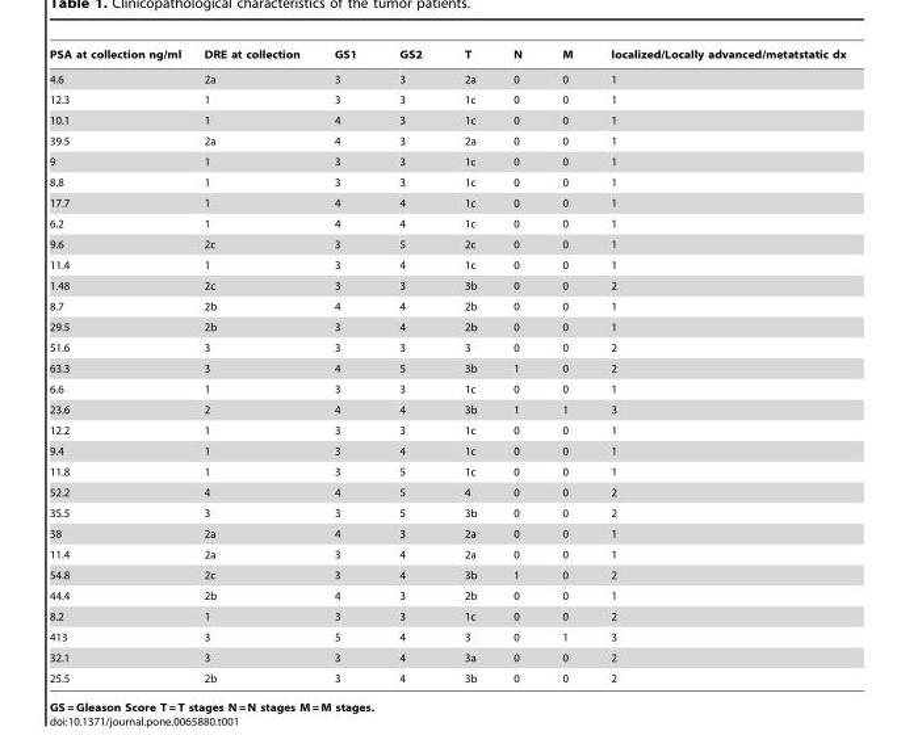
<table><thead><tr><td>PSA at collection ng/ml</td><td>DRE at collection</td><td>GS1</td><td>GS2</td><td>T</td><td>N</td><td>M</td><td>localized/Locally advanced/metatstatic dx</td></tr></thead><tbody><tr><td>4.6</td><td>2a</td><td>3</td><td>3</td><td>2a</td><td>0</td><td>0</td><td>1</td></tr><tr><td>12.3</td><td>1</td><td>3</td><td>3</td><td>1c</td><td>0</td><td>0</td><td>1</td></tr><tr><td>10.1</td><td>1</td><td>4</td><td>3</td><td>1c</td><td>0</td><td>0</td><td>1</td></tr><tr><td>39.5</td><td>2a</td><td>4</td><td>3</td><td>2a</td><td>0</td><td>0</td><td>1</td></tr><tr><td>9</td><td>1</td><td>3</td><td>3</td><td>1c</td><td>0</td><td>0</td><td>1</td></tr><tr><td>8.8</td><td>1</td><td>3</td><td>3</td><td>1c</td><td>0</td><td>0</td><td>1</td></tr><tr><td>17.7</td><td>1</td><td>4</td><td>4</td><td>1c</td><td>0</td><td>0</td><td>1</td></tr><tr><td>6.2</td><td>1</td><td>4</td><td>4</td><td>1c</td><td>0</td><td>0</td><td>1</td></tr><tr><td>9.6</td><td>2c</td><td>3</td><td>5</td><td>2c</td><td>0</td><td>0</td><td>1</td></tr><tr><td>11.4</td><td>1</td><td>3</td><td>4</td><td>1c</td><td>0</td><td>0</td><td>1</td></tr><tr><td>1.48</td><td>2c</td><td>3</td><td>3</td><td>3b</td><td>0</td><td>0</td><td>2</td></tr><tr><td>8.7</td><td>2b</td><td>4</td><td>4</td><td>2b</td><td>0</td><td>0</td><td>1</td></tr><tr><td>29.5</td><td>2b</td><td>3</td><td>4</td><td>2b</td><td>0</td><td>0</td><td>1</td></tr><tr><td>51.6</td><td>3</td><td>3</td><td>3</td><td>3</td><td>0</td><td>0</td><td>2</td></tr><tr><td>63.3</td><td>3</td><td>4</td><td>5</td><td>3b</td><td>1</td><td>0</td><td>2</td></tr><tr><td>6.6</td><td>1</td><td>3</td><td>3</td><td>1c</td><td>0</td><td>0</td><td>1</td></tr><tr><td>23.6</td><td>2</td><td>4</td><td>4</td><td>3b</td><td>1</td><td>1</td><td>3</td></tr><tr><td>12.2</td><td>1</td><td>3</td><td>3</td><td>1c</td><td>0</td><td>0</td><td>1</td></tr><tr><td>9.4</td><td>1</td><td>3</td><td>4</td><td>1c</td><td>0</td><td>0</td><td>1</td></tr><tr><td>11.8</td><td>1</td><td>3</td><td>5</td><td>1c</td><td>0</td><td>0</td><td>1</td></tr><tr><td>52.2</td><td>4</td><td>4</td><td>5</td><td>4</td><td>0</td><td>0</td><td>2</td></tr><tr><td>35.5</td><td>3</td><td>3</td><td>5</td><td>3b</td><td>0</td><td>0</td><td>2</td></tr><tr><td>38</td><td>2a</td><td>4</td><td>3</td><td>2a</td><td>0</td><td>0</td><td>1</td></tr><tr><td>11.4</td><td>2a</td><td>3</td><td>4</td><td>2a</td><td>0</td><td>0</td><td>1</td></tr><tr><td>54.8</td><td>2c</td><td>3</td><td>4</td><td>3b</td><td>1</td><td>0</td><td>2</td></tr><tr><td>44.4</td><td>2b</td><td>4</td><td>3</td><td>2b</td><td>0</td><td>0</td><td>1</td></tr><tr><td>8.2</td><td>1</td><td>3</td><td>3</td><td>1c</td><td>0</td><td>0</td><td>2</td></tr><tr><td>413</td><td>3</td><td>5</td><td>4</td><td>3</td><td>0</td><td>1</td><td>3</td></tr><tr><td>32.1</td><td>3</td><td>3</td><td>4</td><td>3a</td><td>0</td><td>0</td><td>2</td></tr><tr><td>25.5</td><td>2b</td><td>3</td><td>4</td><td>3b</td><td>0</td><td>0</td><td>2</td></tr></tbody></table>